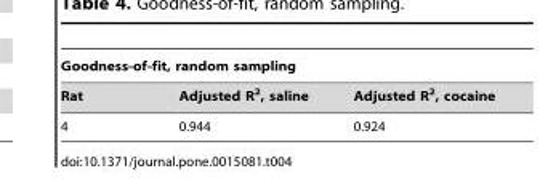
<table><thead><tr><td colspan="3">Goodness-of-fit, random sampling</td></tr><tr><td>Rat</td><td>Adjusted R<sup>2</sup>, saline</td><td>Adjusted R<sup>2</sup>, cocaine</td></tr></thead><tbody><tr><td>4</td><td>0.944</td><td>0.924</td></tr></tbody></table>